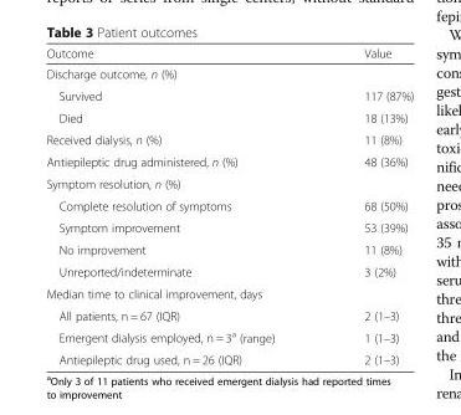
<table><thead><tr><td>Outcome</td><td>Value</td></tr></thead><tbody><tr><td colspan="2">Discharge outcome, n (%)</td></tr><tr><td>Survived</td><td>117 (87%)</td></tr><tr><td>Died</td><td>18 (13%)</td></tr><tr><td>Received dialysis, n (%)</td><td>11 (8%)</td></tr><tr><td>Antiepileptic drug administered, n (%)</td><td>48 (36%)</td></tr><tr><td colspan="2">Symptom resolution, n (%)</td></tr><tr><td>Complete resolution of symptoms</td><td>68 (50%)</td></tr><tr><td>Symptom improvement</td><td>53 (39%)</td></tr><tr><td>No improvement</td><td>11 (8%)</td></tr><tr><td>Unreported/indeterminate</td><td>3 (2%)</td></tr><tr><td colspan="2">Median time to clinical improvement, days</td></tr><tr><td>All patients, n = 67 (IQR)</td><td>2 (1–3)</td></tr><tr><td>Emergent dialysis employed, n = 3<sup>a</sup> (range)</td><td>1 (1–3)</td></tr><tr><td>Antiepileptic drug used, n = 26 (IQR)</td><td>2 (1–3)</td></tr></tbody></table>